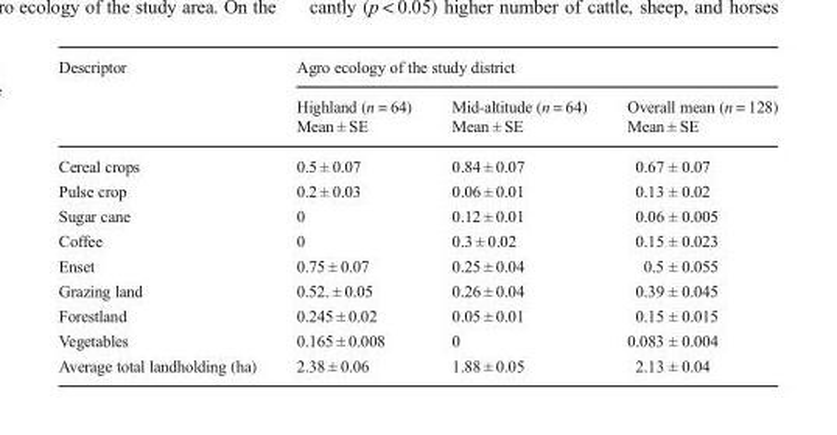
<table><thead><tr><td rowspan="3">Descriptor</td><td colspan="3">Agro ecology of the study district</td></tr><tr><td rowspan="2">Highland (n = 64) Mean ± SE</td><td rowspan="2">Mid-altitude (n = 64) Mean ± SE</td><td rowspan="2">Overall mean (n = 128) Mean ± SE</td></tr><tr></tr></thead><tbody><tr><td>Cereal crops</td><td>0.5 ± 0.07</td><td>0.84 ± 0.07</td><td>0.67 ± 0.07</td></tr><tr><td>Pulse crop</td><td>0.2 ± 0.03</td><td>0.06 ± 0.01</td><td>0.13 ± 0.02</td></tr><tr><td>Sugar cane</td><td>0</td><td>0.12 ± 0.01</td><td>0.06 ± 0.005</td></tr><tr><td>Coffee</td><td>0</td><td>0.3 ± 0.02</td><td>0.15 ± 0.023</td></tr><tr><td>Enset</td><td>0.75 ± 0.07</td><td>0.25 ± 0.04</td><td>0.5 ± 0.055</td></tr><tr><td>Grazing land</td><td>0.52. ± 0.05</td><td>0.26 ± 0.04</td><td>0.39 ± 0.045</td></tr><tr><td>Forestland</td><td>0.245 ± 0.02</td><td>0.05 ± 0.01</td><td>0.15 ± 0.015</td></tr><tr><td>Vegetables</td><td>0.165 ± 0.008</td><td>0</td><td>0.083 ± 0.004</td></tr><tr><td>Average total landholding (ha)</td><td>2.38 ± 0.06</td><td>1.88 ± 0.05</td><td>2.13 ± 0.04</td></tr></tbody></table>